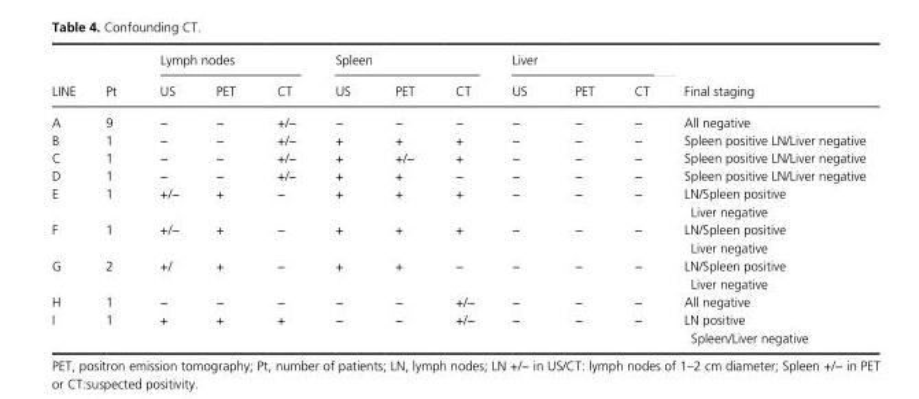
<table><thead><tr><td rowspan="2">LINE</td><td rowspan="2">Pt</td><td colspan="3">Lymph nodes</td><td colspan="3">Spleen</td><td colspan="3">Liver</td><td rowspan="2">Final staging</td></tr><tr><td>US</td><td>PET</td><td>CT</td><td>US</td><td>PET</td><td>CT</td><td>US</td><td>PET</td><td>CT</td></tr></thead><tbody><tr><td>A</td><td>9</td><td>−</td><td>−</td><td>+/−</td><td>−</td><td>−</td><td>−</td><td>−</td><td>−</td><td>−</td><td>All negative</td></tr><tr><td>B</td><td>1</td><td>−</td><td>−</td><td>+/−</td><td>+</td><td>+</td><td>+</td><td>−</td><td>−</td><td>−</td><td>Spleen positive LN/Liver negative</td></tr><tr><td>C</td><td>1</td><td>−</td><td>−</td><td>+/−</td><td>+</td><td>+/−</td><td>+</td><td>−</td><td>−</td><td>−</td><td>Spleen positive LN/Liver negative</td></tr><tr><td>D</td><td>1</td><td>−</td><td>−</td><td>+/−</td><td>+</td><td>+</td><td>−</td><td>−</td><td>−</td><td>−</td><td>Spleen positive LN/Liver negative</td></tr><tr><td>E</td><td>1</td><td>+/−</td><td>+</td><td>−</td><td>+</td><td>+</td><td>+</td><td>−</td><td>−</td><td>−</td><td>LN/Spleen positive Liver negative</td></tr><tr><td>F</td><td>1</td><td>+/−</td><td>+</td><td>−</td><td>+</td><td>+</td><td>+</td><td>−</td><td>−</td><td>−</td><td>LN/Spleen positive Liver negative</td></tr><tr><td>G</td><td>2</td><td>+/</td><td>+</td><td>−</td><td>+</td><td>+</td><td>−</td><td>−</td><td>−</td><td>−</td><td>LN/Spleen positive Liver negative</td></tr><tr><td>H</td><td>1</td><td>−</td><td>−</td><td>−</td><td>−</td><td>−</td><td>+/−</td><td>−</td><td>−</td><td>−</td><td>All negative</td></tr><tr><td>I</td><td>1</td><td>+</td><td>+</td><td>+</td><td>−</td><td>−</td><td>+/−</td><td>−</td><td>−</td><td>−</td><td>LN positive Spleen/Liver negative</td></tr></tbody></table>